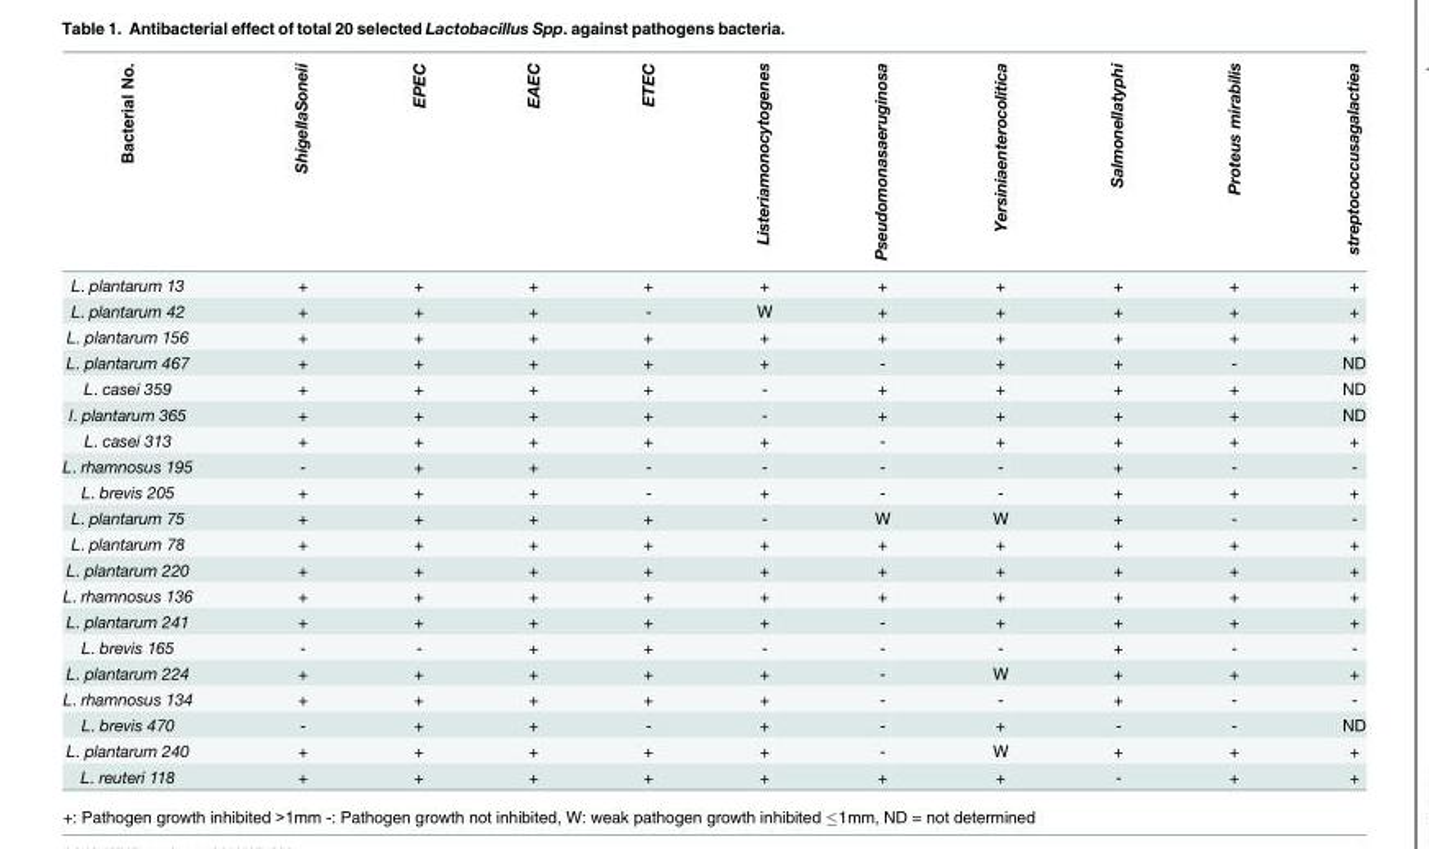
<table><thead><tr><td>Bacterial No.</td><td>ShigellaSoneii</td><td>EPEC</td><td>EAEC</td><td>ETEC</td><td>Listeriamonocytogenes</td><td>Pseudomonasaeruginosa</td><td>Yersiniaenterocolitica</td><td>Salmonellatyphi</td><td>Proteus mirabilis</td><td>streptococcusagalactiea</td></tr></thead><tbody><tr><td>L. plantarum 13</td><td>+</td><td>+</td><td>+</td><td>+</td><td>+</td><td>+</td><td>+</td><td>+</td><td>+</td><td>+</td></tr><tr><td>L. plantarum 42</td><td>+</td><td>+</td><td>+</td><td>-</td><td>W</td><td>+</td><td>+</td><td>+</td><td>+</td><td>+</td></tr><tr><td>L. plantarum 156</td><td>+</td><td>+</td><td>+</td><td>+</td><td>+</td><td>+</td><td>+</td><td>+</td><td>+</td><td>+</td></tr><tr><td>L. plantarum 467</td><td>+</td><td>+</td><td>+</td><td>+</td><td>+</td><td>-</td><td>+</td><td>+</td><td>-</td><td>ND</td></tr><tr><td>L. casei 359</td><td>+</td><td>+</td><td>+</td><td>+</td><td>-</td><td>+</td><td>+</td><td>+</td><td>+</td><td>ND</td></tr><tr><td>l. plantarum 365</td><td>+</td><td>+</td><td>+</td><td>+</td><td>-</td><td>+</td><td>+</td><td>+</td><td>+</td><td>ND</td></tr><tr><td>L. casei 313</td><td>+</td><td>+</td><td>+</td><td>+</td><td>+</td><td>-</td><td>+</td><td>+</td><td>+</td><td>+</td></tr><tr><td>L. rhamnosus 195</td><td>-</td><td>+</td><td>+</td><td>-</td><td>-</td><td>-</td><td>-</td><td>+</td><td>-</td><td>-</td></tr><tr><td>L. brevis 205</td><td>+</td><td>+</td><td>+</td><td>-</td><td>+</td><td>-</td><td>-</td><td>+</td><td>+</td><td>+</td></tr><tr><td>L. plantarum 75</td><td>+</td><td>+</td><td>+</td><td>+</td><td>-</td><td>W</td><td>W</td><td>+</td><td>-</td><td>-</td></tr><tr><td>L. plantarum 78</td><td>+</td><td>+</td><td>+</td><td>+</td><td>+</td><td>+</td><td>+</td><td>+</td><td>+</td><td>+</td></tr><tr><td>L. plantarum 220</td><td>+</td><td>+</td><td>+</td><td>+</td><td>+</td><td>+</td><td>+</td><td>+</td><td>+</td><td>+</td></tr><tr><td>L. rhamnosus 136</td><td>+</td><td>+</td><td>+</td><td>+</td><td>+</td><td>+</td><td>+</td><td>+</td><td>+</td><td>+</td></tr><tr><td>L. plantarum 241</td><td>+</td><td>+</td><td>+</td><td>+</td><td>+</td><td>-</td><td>+</td><td>+</td><td>+</td><td>+</td></tr><tr><td>L. brevis 165</td><td>-</td><td>-</td><td>+</td><td>+</td><td>-</td><td>-</td><td>-</td><td>+</td><td>-</td><td>-</td></tr><tr><td>L. plantarum 224</td><td>+</td><td>+</td><td>+</td><td>+</td><td>+</td><td>-</td><td>W</td><td>+</td><td>+</td><td>+</td></tr><tr><td>L. rhamnosus 134</td><td>+</td><td>+</td><td>+</td><td>+</td><td>+</td><td>-</td><td>-</td><td>+</td><td>-</td><td>-</td></tr><tr><td>L. brevis 470</td><td>-</td><td>+</td><td>+</td><td>-</td><td>+</td><td>-</td><td>+</td><td>-</td><td>-</td><td>ND</td></tr><tr><td>L. plantarum 240</td><td>+</td><td>+</td><td>+</td><td>+</td><td>+</td><td>-</td><td>W</td><td>+</td><td>+</td><td>+</td></tr><tr><td>L. reuteri 118</td><td>+</td><td>+</td><td>+</td><td>+</td><td>+</td><td>+</td><td>+</td><td>-</td><td>+</td><td>+</td></tr></tbody></table>